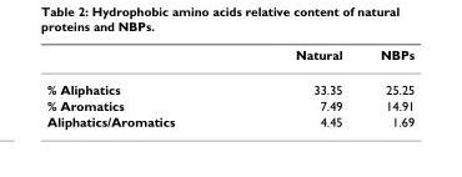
<table><thead><tr><td></td><td>Natural</td><td>NBPs</td></tr></thead><tbody><tr><td>% Aliphatics</td><td>33.35</td><td>25.25</td></tr><tr><td>% Aromatics</td><td>7.49</td><td>14.91</td></tr><tr><td>Aliphatics/Aromatics</td><td>4.45</td><td>1.69</td></tr></tbody></table>